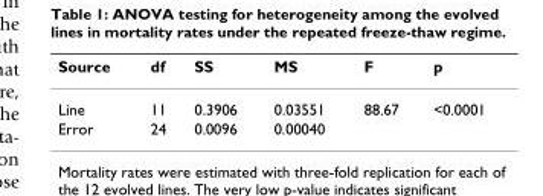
<table><thead><tr><td>Source</td><td>df</td><td>SS</td><td>MS</td><td>F</td><td>p</td></tr></thead><tbody><tr><td>Line</td><td>11</td><td>0.3906</td><td>0.03551</td><td>88.67</td><td>&lt;0.0001</td></tr><tr><td>Error</td><td>24</td><td>0.0096</td><td>0.00040</td><td></td><td></td></tr></tbody></table>